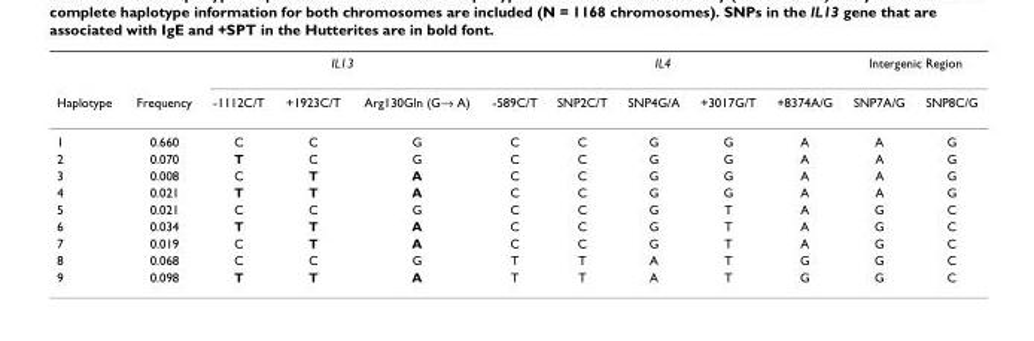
<table><thead><tr><td rowspan="2">Haplotype</td><td rowspan="2">Frequency</td><td colspan="3">IL13</td><td colspan="5">IL4</td><td colspan="2">Intergenic Region</td></tr><tr><td>-1112C/T</td><td>+1923C/T</td><td>Arg130Gln (G→ A)</td><td>-589C/T</td><td>SNP2C/T</td><td>SNP4G/A</td><td>+3017G/T</td><td>+8374A/G</td><td>SNP7A/G</td><td>SNP8C/G</td></tr></thead><tbody><tr><td>1</td><td>0.660</td><td>C</td><td>C</td><td>G</td><td>C</td><td>C</td><td>G</td><td>G</td><td>A</td><td>A</td><td>G</td></tr><tr><td>2</td><td>0.070</td><td>T</td><td>C</td><td>G</td><td>C</td><td>C</td><td>G</td><td>G</td><td>A</td><td>A</td><td>G</td></tr><tr><td>3</td><td>0.008</td><td>C</td><td>T</td><td>A</td><td>C</td><td>C</td><td>G</td><td>G</td><td>A</td><td>A</td><td>G</td></tr><tr><td>4</td><td>0.021</td><td>T</td><td>T</td><td>A</td><td>C</td><td>C</td><td>G</td><td>G</td><td>A</td><td>A</td><td>G</td></tr><tr><td>5</td><td>0.021</td><td>C</td><td>C</td><td>G</td><td>C</td><td>C</td><td>G</td><td>T</td><td>A</td><td>G</td><td>C</td></tr><tr><td>6</td><td>0.034</td><td>T</td><td>T</td><td>A</td><td>C</td><td>C</td><td>G</td><td>T</td><td>A</td><td>G</td><td>C</td></tr><tr><td>7</td><td>0.019</td><td>C</td><td>T</td><td>A</td><td>C</td><td>C</td><td>G</td><td>T</td><td>A</td><td>G</td><td>C</td></tr><tr><td>8</td><td>0.068</td><td>C</td><td>C</td><td>G</td><td>T</td><td>T</td><td>A</td><td>T</td><td>G</td><td>G</td><td>C</td></tr><tr><td>9</td><td>0.098</td><td>T</td><td>T</td><td>A</td><td>T</td><td>T</td><td>A</td><td>T</td><td>G</td><td>G</td><td>C</td></tr></tbody></table>